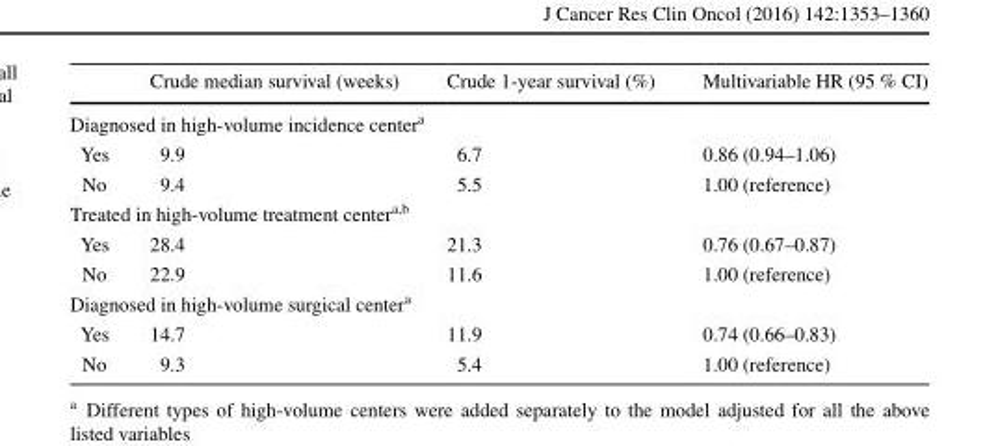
<table><thead><tr><td></td><td>Crude median survival (weeks)</td><td>Crude 1-year survival (%)</td><td>Multivariable HR (95 % CI)</td></tr></thead><tbody><tr><td colspan="4">Diagnosed in high-volume incidence center<sup>a</sup></td></tr><tr><td>Yes</td><td>9.9</td><td>6.7</td><td>0.86 (0.94–1.06)</td></tr><tr><td>No</td><td>9.4</td><td>5.5</td><td>1.00 (reference)</td></tr><tr><td colspan="4">Treated in high-volume treatment center<sup>a,b</sup></td></tr><tr><td>Yes</td><td>28.4</td><td>21.3</td><td>0.76 (0.67–0.87)</td></tr><tr><td>No</td><td>22.9</td><td>11.6</td><td>1.00 (reference)</td></tr><tr><td colspan="4">Diagnosed in high-volume surgical center<sup>a</sup></td></tr><tr><td>Yes</td><td>14.7</td><td>11.9</td><td>0.74 (0.66–0.83)</td></tr><tr><td>No</td><td>9.3</td><td>5.4</td><td>1.00 (reference)</td></tr></tbody></table>